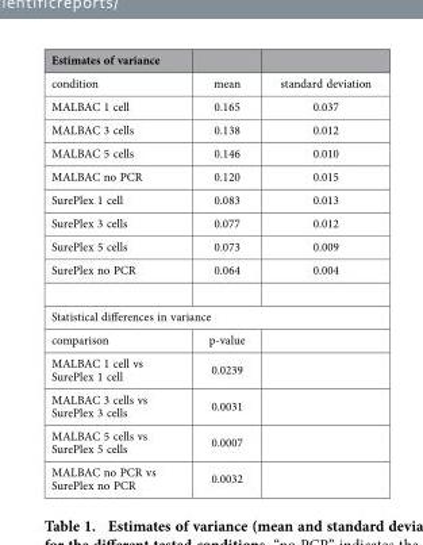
<table><thead><tr><td>Estimates of variance</td><td></td><td></td></tr></thead><tbody><tr><td>condition</td><td>mean</td><td>standard deviation</td></tr><tr><td>MALBAC 1 cell</td><td>0.165</td><td>0.037</td></tr><tr><td>MALBAC 3 cells</td><td>0.138</td><td>0.012</td></tr><tr><td>MALBAC 5 cells</td><td>0.146</td><td>0.010</td></tr><tr><td>MALBAC no PCR</td><td>0.120</td><td>0.015</td></tr><tr><td>SurePlex 1 cell</td><td>0.083</td><td>0.013</td></tr><tr><td>SurePlex 3 cells</td><td>0.077</td><td>0.012</td></tr><tr><td>SurePlex 5 cells</td><td>0.073</td><td>0.009</td></tr><tr><td>SurePlex no PCR</td><td>0.064</td><td>0.004</td></tr><tr><td colspan="3">Statistical differences in variance</td></tr><tr><td>comparison</td><td>p-value</td><td></td></tr><tr><td>MALBAC 1 cell vs SurePlex 1 cell</td><td>0.0239</td><td></td></tr><tr><td>MALBAC 3 cells vs SurePlex 3 cells</td><td>0.0031</td><td></td></tr><tr><td>MALBAC 5 cells vs SurePlex 5 cells</td><td>0.0007</td><td></td></tr><tr><td>MALBAC no PCR vs SurePlex no PCR</td><td>0.0032</td><td></td></tr></tbody></table>